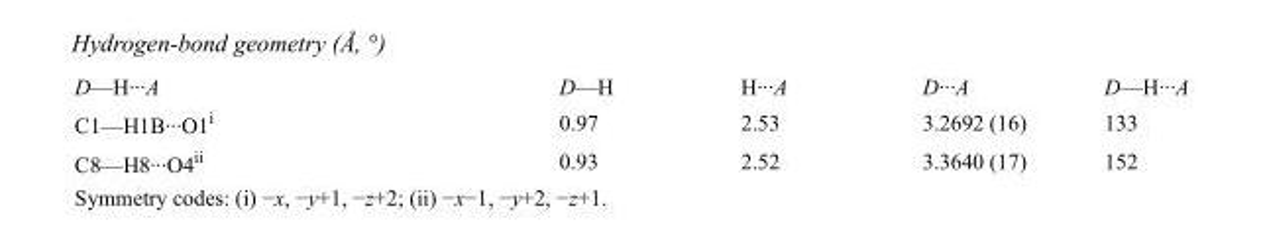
<table><tbody><tr><td>D—H···A</td><td>D—H</td><td>H···A</td><td>D···A</td><td>D—H···A</td></tr><tr><td>C1—H1B···O1<sup>i</sup></td><td>0.97</td><td>2.53</td><td>3.2692 (16)</td><td>133</td></tr><tr><td>C8—H8···O4<sup>ii</sup></td><td>0.93</td><td>2.52</td><td>3.3640 (17)</td><td>152</td></tr></tbody></table>